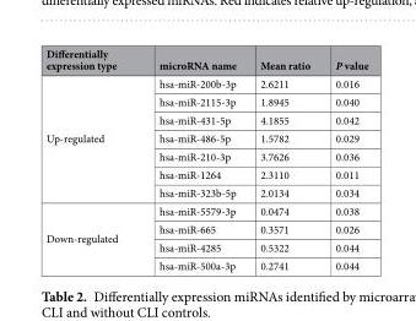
<table><thead><tr><td>Differentially expression type</td><td>microRNA name</td><td>Mean ratio</td><td>P value</td></tr></thead><tbody><tr><td rowspan="7">Up-regulated</td><td>hsa-miR-200b-3p</td><td>2.6211</td><td>0.016</td></tr><tr><td>hsa-miR-2115-3p</td><td>1.8945</td><td>0.040</td></tr><tr><td>hsa-miR-431-5p</td><td>4.1855</td><td>0.042</td></tr><tr><td>hsa-miR-486-5p</td><td>1.5782</td><td>0.029</td></tr><tr><td>hsa-miR-210-3p</td><td>3.7626</td><td>0.036</td></tr><tr><td>hsa-miR-1264</td><td>2.3110</td><td>0.011</td></tr><tr><td>hsa-miR-323b-5p</td><td>2.0134</td><td>0.034</td></tr><tr><td rowspan="4">Down-regulated</td><td>hsa-miR-5579-3p</td><td>0.0474</td><td>0.038</td></tr><tr><td>hsa-miR-665</td><td>0.3571</td><td>0.026</td></tr><tr><td>hsa-miR-4285</td><td>0.5322</td><td>0.044</td></tr><tr><td>hsa-miR-500a-3p</td><td>0.2741</td><td>0.044</td></tr></tbody></table>